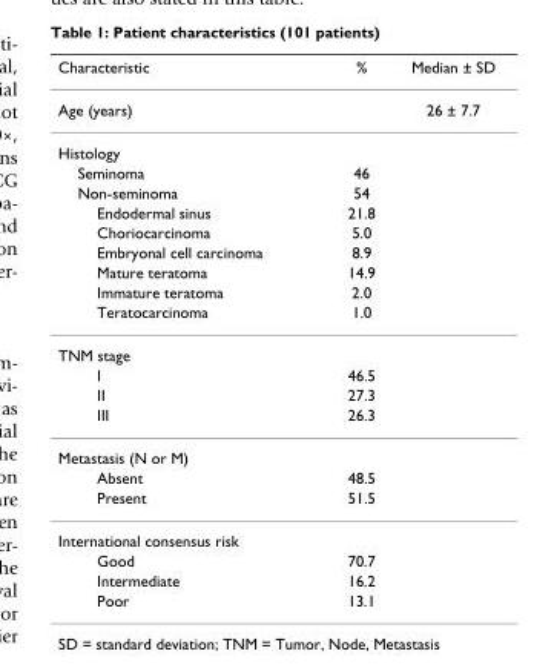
<table><thead><tr><td>Characteristic</td><td>%</td><td>Median ± SD</td></tr></thead><tbody><tr><td>Age (years)</td><td></td><td>26 ± 7.7</td></tr><tr><td colspan="3">Histology</td></tr><tr><td>Seminoma</td><td>46</td><td></td></tr><tr><td>Non-seminoma</td><td>54</td><td></td></tr><tr><td>Endodermal sinus</td><td>21.8</td><td></td></tr><tr><td>Choriocarcinoma</td><td>5.0</td><td></td></tr><tr><td>Embryonal cell carcinoma</td><td>8.9</td><td></td></tr><tr><td>Mature teratoma</td><td>14.9</td><td></td></tr><tr><td>Immature teratoma</td><td>2.0</td><td></td></tr><tr><td>Teratocarcinoma</td><td>1.0</td><td></td></tr><tr><td colspan="3">TNM stage</td></tr><tr><td>I</td><td>46.5</td><td></td></tr><tr><td>II</td><td>27.3</td><td></td></tr><tr><td>III</td><td>26.3</td><td></td></tr><tr><td colspan="3">Metastasis (N or M)</td></tr><tr><td>Absent</td><td>48.5</td><td></td></tr><tr><td>Present</td><td>51.5</td><td></td></tr><tr><td colspan="3">International consensus risk</td></tr><tr><td>Good</td><td>70.7</td><td></td></tr><tr><td>Intermediate</td><td>16.2</td><td></td></tr><tr><td>Poor</td><td>13.1</td><td></td></tr></tbody></table>